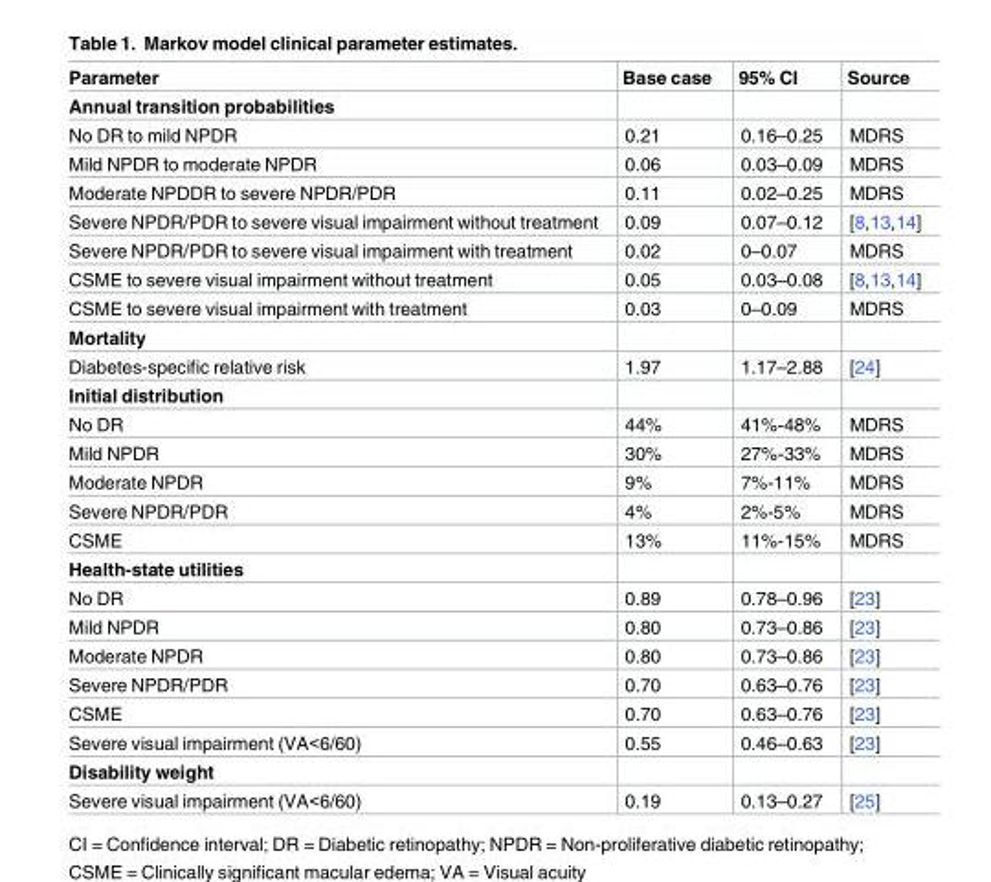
<table><thead><tr><td>Parameter</td><td>Base case</td><td>95% CI</td><td>Source</td></tr></thead><tbody><tr><td colspan="4">Annual transition probabilities</td></tr><tr><td>No DR to mild NPDR</td><td>0.21</td><td>0.16–0.25</td><td>MDRS</td></tr><tr><td>Mild NPDR to moderate NPDR</td><td>0.06</td><td>0.03–0.09</td><td>MDRS</td></tr><tr><td>Moderate NPDDR to severe NPDR/PDR</td><td>0.11</td><td>0.02–0.25</td><td>MDRS</td></tr><tr><td>Severe NPDR/PDR to severe visual impairment without treatment</td><td>0.09</td><td>0.07–0.12</td><td>[8,13,14]</td></tr><tr><td>Severe NPDR/PDR to severe visual impairment with treatment</td><td>0.02</td><td>0–0.07</td><td>MDRS</td></tr><tr><td>CSME to severe visual impairment without treatment</td><td>0.05</td><td>0.03–0.08</td><td>[8,13,14]</td></tr><tr><td>CSME to severe visual impairment with treatment</td><td>0.03</td><td>0–0.09</td><td>MDRS</td></tr><tr><td colspan="4">Mortality</td></tr><tr><td>Diabetes-specific relative risk</td><td>1.97</td><td>1.17–2.88</td><td>[24]</td></tr><tr><td colspan="4">Initial distribution</td></tr><tr><td>No DR</td><td>44%</td><td>41%-48%</td><td>MDRS</td></tr><tr><td>Mild NPDR</td><td>30%</td><td>27%-33%</td><td>MDRS</td></tr><tr><td>Moderate NPDR</td><td>9%</td><td>7%-11%</td><td>MDRS</td></tr><tr><td>Severe NPDR/PDR</td><td>4%</td><td>2%-5%</td><td>MDRS</td></tr><tr><td>CSME</td><td>13%</td><td>11%-15%</td><td>MDRS</td></tr><tr><td colspan="4">Health-state utilities</td></tr><tr><td>No DR</td><td>0.89</td><td>0.78–0.96</td><td>[23]</td></tr><tr><td>Mild NPDR</td><td>0.80</td><td>0.73–0.86</td><td>[23]</td></tr><tr><td>Moderate NPDR</td><td>0.80</td><td>0.73–0.86</td><td>[23]</td></tr><tr><td>Severe NPDR/PDR</td><td>0.70</td><td>0.63–0.76</td><td>[23]</td></tr><tr><td>CSME</td><td>0.70</td><td>0.63–0.76</td><td>[23]</td></tr><tr><td>Severe visual impairment (VA&lt;6/60)</td><td>0.55</td><td>0.46–0.63</td><td>[23]</td></tr><tr><td colspan="4">Disability weight</td></tr><tr><td>Severe visual impairment (VA&lt;6/60)</td><td>0.19</td><td>0.13–0.27</td><td>[25]</td></tr></tbody></table>